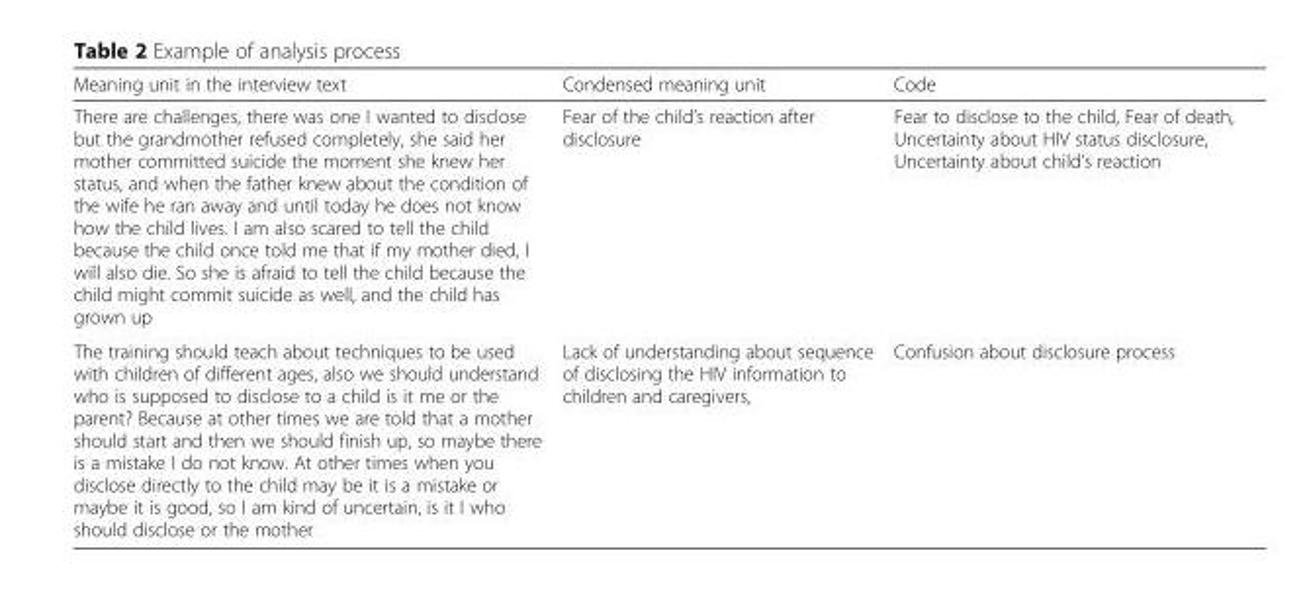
<table><thead><tr><td>Meaning unit in the interview text</td><td>Condensed meaning unit</td><td>Code</td></tr></thead><tbody><tr><td>There are challenges, there was one I wanted to disclose but the grandmother refused completely, she said her mother committed suicide the moment she knew her status, and when the father knew about the condition of the wife he ran away and until today he does not know how the child lives. I am also scared to tell the child because the child once told me that if my mother died, I will also die. So she is afraid to tell the child because the child might commit suicide as well, and the child has grown up</td><td>Fear of the child’s reaction after disclosure</td><td>Fear to disclose to the child, Fear of death, Uncertainty about HIV status disclosure, Uncertainty about child’s reaction</td></tr><tr><td>The training should teach about techniques to be used with children of different ages, also we should understand who is supposed to disclose to a child is it me or the parent? Because at other times we are told that a mother should start and then we should finish up, so maybe there is a mistake I do not know. At other times when you disclose directly to the child may be it is a mistake or maybe it is good, so I am kind of uncertain, is it I who should disclose or the mother</td><td>Lack of understanding about sequence of disclosing the HIV information to children and caregivers,</td><td>Confusion about disclosure process</td></tr></tbody></table>